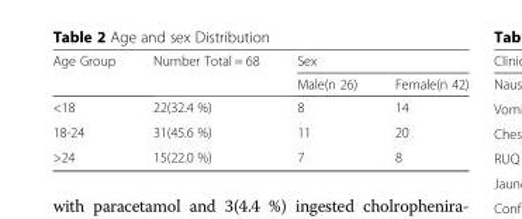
<table><thead><tr><td rowspan="2">Age Group</td><td rowspan="2">Number Total = 68</td><td colspan="2">Sex</td></tr><tr><td>Male(n 26)</td><td>Female(n 42)</td></tr></thead><tbody><tr><td>&lt;18</td><td>22(32.4 %)</td><td>8</td><td>14</td></tr><tr><td>18-24</td><td>31(45.6 %)</td><td>11</td><td>20</td></tr><tr><td>&gt;24</td><td>15(22.0 %)</td><td>7</td><td>8</td></tr></tbody></table>